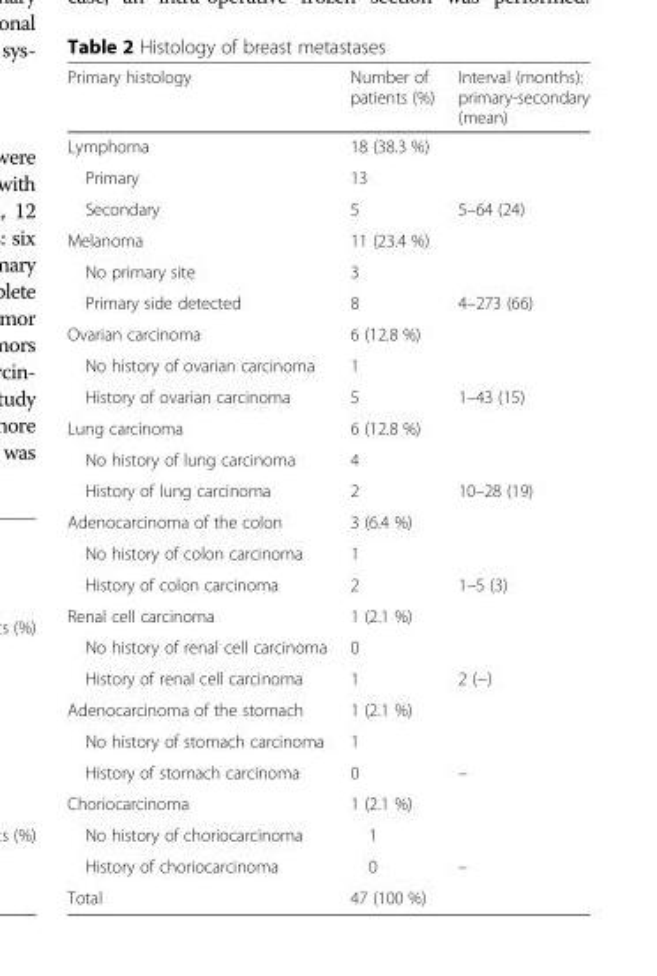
<table><thead><tr><td>Primary histology</td><td>Number of patients (%)</td><td>Interval (months): primary-secondary (mean)</td></tr></thead><tbody><tr><td>Lymphoma</td><td>18 (38.3 %)</td><td></td></tr><tr><td>Primary</td><td>13</td><td></td></tr><tr><td>Secondary</td><td>5</td><td>5–64 (24)</td></tr><tr><td>Melanoma</td><td>11 (23.4 %)</td><td></td></tr><tr><td>No primary site</td><td>3</td><td></td></tr><tr><td>Primary side detected</td><td>8</td><td>4–273 (66)</td></tr><tr><td>Ovarian carcinoma</td><td>6 (12.8 %)</td><td></td></tr><tr><td>No history of ovarian carcinoma</td><td>1</td><td></td></tr><tr><td>History of ovarian carcinoma</td><td>5</td><td>1–43 (15)</td></tr><tr><td>Lung carcinoma</td><td>6 (12.8 %)</td><td></td></tr><tr><td>No history of lung carcinoma</td><td>4</td><td></td></tr><tr><td>History of lung carcinoma</td><td>2</td><td>10–28 (19)</td></tr><tr><td>Adenocarcinoma of the colon</td><td>3 (6.4 %)</td><td></td></tr><tr><td>No history of colon carcinoma</td><td>1</td><td></td></tr><tr><td>History of colon carcinoma</td><td>2</td><td>1–5 (3)</td></tr><tr><td>Renal cell carcinoma</td><td>1 (2.1 %)</td><td></td></tr><tr><td>No history of renal cell carcinoma</td><td>0</td><td></td></tr><tr><td>History of renal cell carcinoma</td><td>1</td><td>2 (−)</td></tr><tr><td>Adenocarcinoma of the stomach</td><td>1 (2.1 %)</td><td></td></tr><tr><td>No history of stomach carcinoma</td><td>1</td><td></td></tr><tr><td>History of stomach carcinoma</td><td>0</td><td>–</td></tr><tr><td>Choriocarcinoma</td><td>1 (2.1 %)</td><td></td></tr><tr><td>No history of choriocarcinoma</td><td>1</td><td></td></tr><tr><td>History of choriocarcinoma</td><td>0</td><td>–</td></tr><tr><td>Total</td><td>47 (100 %)</td><td></td></tr></tbody></table>